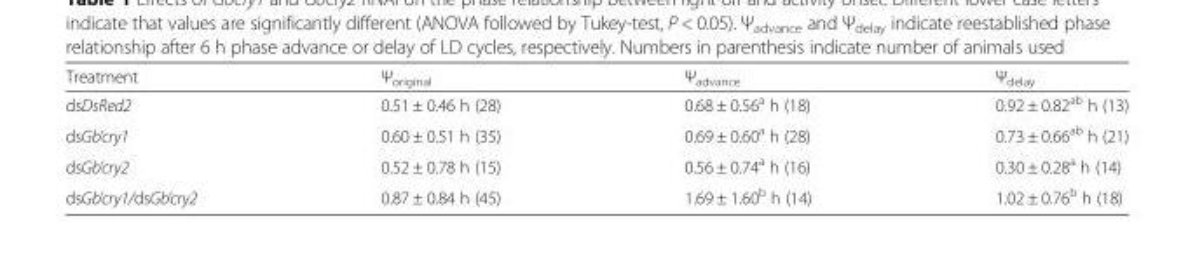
<table><thead><tr><td>Treatment</td><td>Ψ<sub>original</sub></td><td>Ψ<sub>advance</sub></td><td>Ψ<sub>delay</sub></td></tr></thead><tbody><tr><td>dsDsRed2</td><td>0.51 ± 0.46 h (28)</td><td>0.68 ± 0.56<sup>a</sup> h (18)</td><td>0.92 ± 0.82<sup>ab</sup> h (13)</td></tr><tr><td>dsGb’cry1</td><td>0.60 ± 0.51 h (35)</td><td>0.69 ± 0.60<sup>a</sup> h (28)</td><td>0.73 ± 0.66<sup>ab</sup> h (21)</td></tr><tr><td>dsGb’cry2</td><td>0.52 ± 0.78 h (15)</td><td>0.56 ± 0.74<sup>a</sup> h (16)</td><td>0.30 ± 0.28<sup>a</sup> h (14)</td></tr><tr><td>dsGb’cry1/dsGb’cry2</td><td>0.87 ± 0.84 h (45)</td><td>1.69 ± 1.60<sup>b</sup> h (14)</td><td>1.02 ± 0.76<sup>b</sup> h (18)</td></tr></tbody></table>